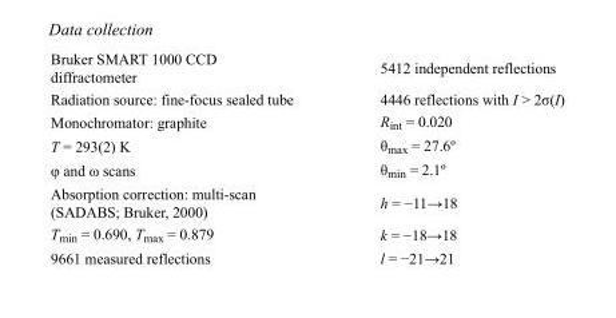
<table><tbody><tr><td>Bruker SMART 1000 CCD diffractometer</td><td>5412 independent reflections</td></tr><tr><td>Radiation source: fine-focus sealed tube</td><td>4446 reflections with I &gt; 2σ(I)</td></tr><tr><td>Monochromator: graphite</td><td>R<sub>int</sub> = 0.020</td></tr><tr><td>T = 293(2) K</td><td>θ<sub>max</sub> = 27.6º</td></tr><tr><td>φ and ω scans</td><td>θ<sub>min</sub> = 2.1º</td></tr><tr><td>Absorption correction: multi-scan (SADABS; Bruker, 2000)</td><td>h = −11→18</td></tr><tr><td>T<sub>min</sub> = 0.690, T<sub>max</sub> = 0.879</td><td>k = −18→18</td></tr><tr><td>9661 measured reflections</td><td>l = −21→21</td></tr></tbody></table>